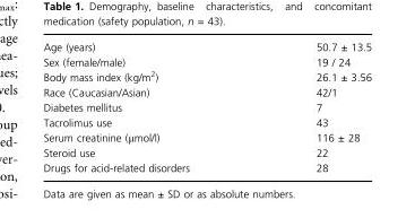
<table><tbody><tr><td>Age (years)</td><td>50.7 ± 13.5</td></tr><tr><td>Sex (female/male)</td><td>19 / 24</td></tr><tr><td>Body mass index (kg/m<sup>2</sup>)</td><td>26.1 ± 3.56</td></tr><tr><td>Race (Caucasian/Asian)</td><td>42/1</td></tr><tr><td>Diabetes mellitus</td><td>7</td></tr><tr><td>Tacrolimus use</td><td>43</td></tr><tr><td>Serum creatinine (μmol/l)</td><td>116 ± 28</td></tr><tr><td>Steroid use</td><td>22</td></tr><tr><td>Drugs for acid-related disorders</td><td>28</td></tr></tbody></table>